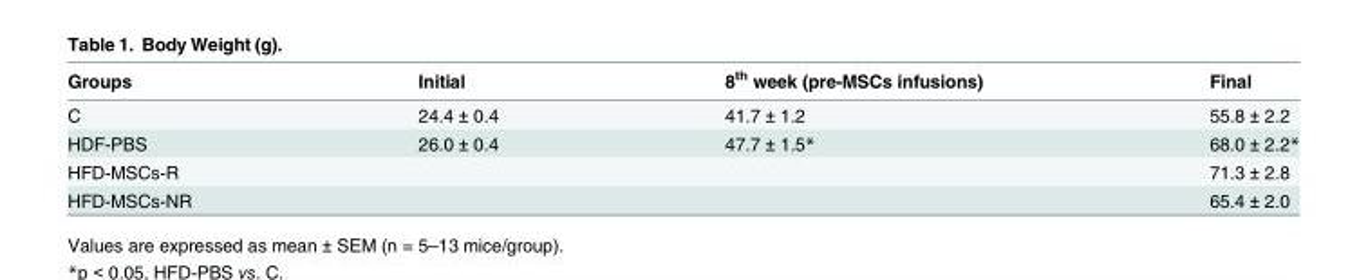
<table><thead><tr><td>Groups</td><td>Initial</td><td>8<sup>th</sup> week (pre-MSCs infusions)</td><td>Final</td></tr></thead><tbody><tr><td>C</td><td>24.4 ± 0.4</td><td>41.7 ± 1.2</td><td>55.8 ± 2.2</td></tr><tr><td>HDF-PBS</td><td>26.0 ± 0.4</td><td>47.7 ± 1.5*</td><td>68.0 ± 2.2*</td></tr><tr><td>HFD-MSCs-R</td><td></td><td></td><td>71.3 ± 2.8</td></tr><tr><td>HFD-MSCs-NR</td><td></td><td></td><td>65.4 ± 2.0</td></tr></tbody></table>